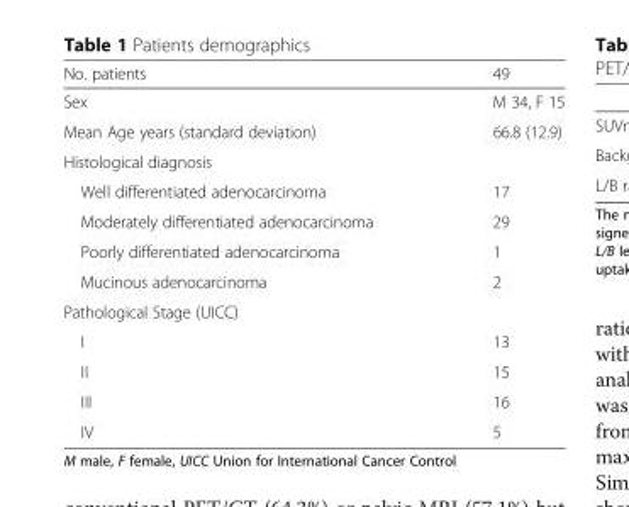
<table><thead><tr><td>No. patients</td><td>49</td></tr></thead><tbody><tr><td>Sex</td><td>M 34, F 15</td></tr><tr><td>Mean Age years (standard deviation)</td><td>66.8 (12.9)</td></tr><tr><td colspan="2">Histological diagnosis</td></tr><tr><td>Well differentiated adenocarcinoma</td><td>17</td></tr><tr><td>Moderately differentiated adenocarcinoma</td><td>29</td></tr><tr><td>Poorly differentiated adenocarcinoma</td><td>1</td></tr><tr><td>Mucinous adenocarcinoma</td><td>2</td></tr><tr><td colspan="2">Pathological Stage (UICC)</td></tr><tr><td>I</td><td>13</td></tr><tr><td>II</td><td>15</td></tr><tr><td>III</td><td>16</td></tr><tr><td>IV</td><td>5</td></tr></tbody></table>